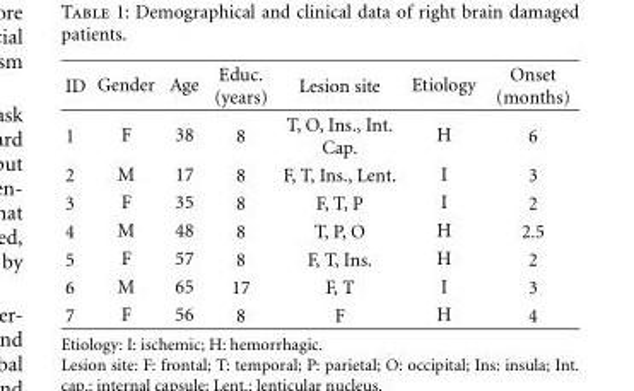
<table><thead><tr><td>ID</td><td>Gender</td><td>Age</td><td>Educ. (years)</td><td>Lesion site</td><td>Etiology</td><td>Onset (months)</td></tr></thead><tbody><tr><td>1</td><td>F</td><td>38</td><td>8</td><td>T, O, Ins., Int. Cap.</td><td>H</td><td>6</td></tr><tr><td>2</td><td>M</td><td>17</td><td>8</td><td>F, T, Ins., Lent.</td><td>I</td><td>3</td></tr><tr><td>3</td><td>F</td><td>35</td><td>8</td><td>F, T, P</td><td>I</td><td>2</td></tr><tr><td>4</td><td>M</td><td>48</td><td>8</td><td>T, P, O</td><td>H</td><td>2.5</td></tr><tr><td>5</td><td>F</td><td>57</td><td>8</td><td>F, T, Ins.</td><td>H</td><td>2</td></tr><tr><td>6</td><td>M</td><td>65</td><td>17</td><td>F, T</td><td>I</td><td>3</td></tr><tr><td>7</td><td>F</td><td>56</td><td>8</td><td>F</td><td>H</td><td>4</td></tr></tbody></table>